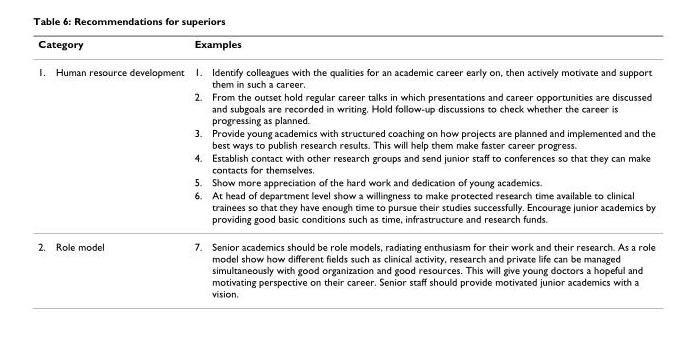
<table><thead><tr><td colspan="2">Category</td><td colspan="2">Examples</td></tr><tr><td>1.</td><td>Human resource development</td><td>1.</td><td>Identify colleagues with the qualities for an academic career early on, then actively motivate and support them in such a career.</td></tr></thead><tbody><tr><td></td><td></td><td>2.</td><td>From the outset hold regular career talks in which presentations and career opportunities are discussed and subgoals are recorded in writing. Hold follow-up discussions to check whether the career is progressing as planned.</td></tr><tr><td></td><td></td><td>3.</td><td>Provide young academics with structured coaching on how projects are planned and implemented and the best ways to publish research results. This will help them make faster career progress.</td></tr><tr><td></td><td></td><td>4.</td><td>Establish contact with other research groups and send junior staff to conferences so that they can make contacts for themselves.</td></tr><tr><td></td><td></td><td>5.</td><td>Show more appreciation of the hard work and dedication of young academics.</td></tr><tr><td></td><td></td><td>6.</td><td>At head of department level show a willingness to make protected research time available to clinical trainees so that they have enough time to pursue their studies successfully. Encourage junior academics by providing good basic conditions such as time, infrastructure and research funds.</td></tr><tr><td>2.</td><td>Role model</td><td>7.</td><td>Senior academics should be role models, radiating enthusiasm for their work and their research. As a role model show how different fields such as clinical activity, research and private life can be managed simultaneously with good organization and good resources. This will give young doctors a hopeful and motivating perspective on their career. Senior staff should provide motivated junior academics with a vision.</td></tr></tbody></table>